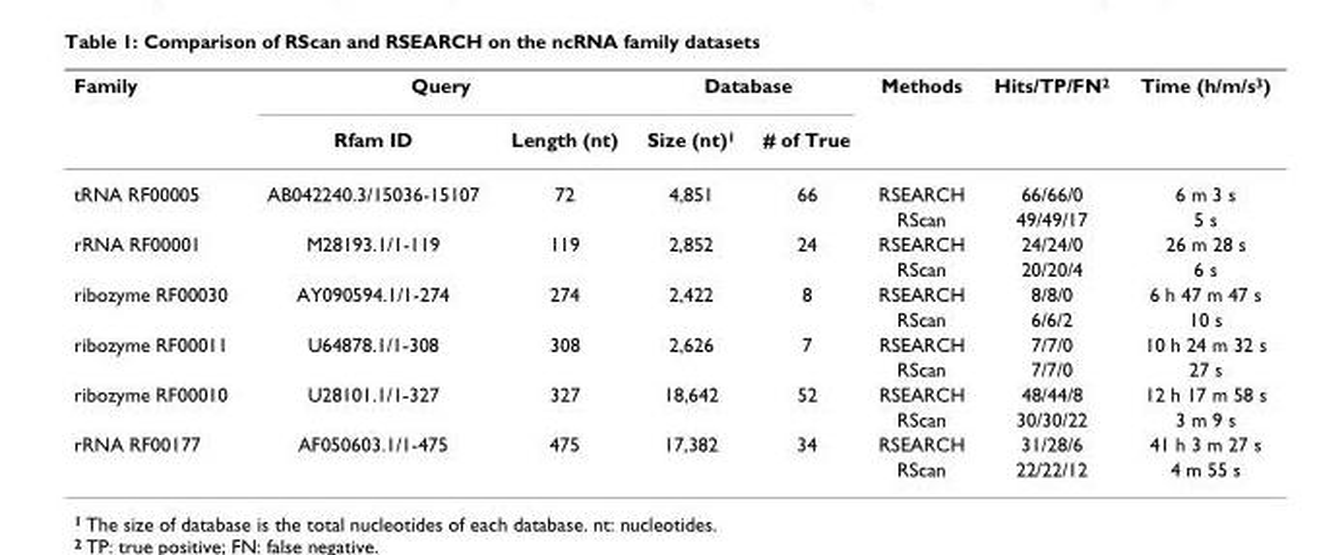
<table><thead><tr><td rowspan="2">Family</td><td colspan="2">Query</td><td colspan="2">Database</td><td rowspan="2">Methods</td><td rowspan="2">Hits/TP/FN<sup>2</sup></td><td rowspan="2">Time (h/m/s<sup>3</sup>)</td></tr><tr><td>Rfam ID</td><td>Length (nt)</td><td>Size (nt)<sup>1</sup></td><td># of True</td></tr></thead><tbody><tr><td rowspan="2">tRNA RF00005</td><td>AB042240.3/15036-15107</td><td>72</td><td>4,851</td><td>66</td><td>RSEARCH</td><td>66/66/0</td><td>6 m 3 s</td></tr><tr><td></td><td></td><td></td><td></td><td>RScan</td><td>49/49/17</td><td>5 s</td></tr><tr><td rowspan="2">rRNA RF00001</td><td>M28193.1/1-119</td><td>119</td><td>2,852</td><td>24</td><td>RSEARCH</td><td>24/24/0</td><td>26 m 28 s</td></tr><tr><td></td><td></td><td></td><td></td><td>RScan</td><td>20/20/4</td><td>6 s</td></tr><tr><td rowspan="2">ribozyme RF00030</td><td>AY090594.1/1-274</td><td>274</td><td>2,422</td><td>8</td><td>RSEARCH</td><td>8/8/0</td><td>6 h 47 m 47 s</td></tr><tr><td></td><td></td><td></td><td></td><td>RScan</td><td>6/6/2</td><td>10 s</td></tr><tr><td rowspan="2">ribozyme RF00011</td><td>U64878.1/1-308</td><td>308</td><td>2,626</td><td>7</td><td>RSEARCH</td><td>7/7/0</td><td>10 h 24 m 32 s</td></tr><tr><td></td><td></td><td></td><td></td><td>RScan</td><td>7/7/0</td><td>27 s</td></tr><tr><td rowspan="2">ribozyme RF00010</td><td>U28101.1/1-327</td><td>327</td><td>18,642</td><td>52</td><td>RSEARCH</td><td>48/44/8</td><td>12 h 17 m 58 s</td></tr><tr><td></td><td></td><td></td><td></td><td>RScan</td><td>30/30/22</td><td>3 m 9 s</td></tr><tr><td rowspan="2">rRNA RF00177</td><td>AF050603.1/1-475</td><td>475</td><td>17,382</td><td>34</td><td>RSEARCH</td><td>31/28/6</td><td>41 h 3 m 27 s</td></tr><tr><td></td><td></td><td></td><td></td><td>RScan</td><td>22/22/12</td><td>4 m 55 s</td></tr></tbody></table>